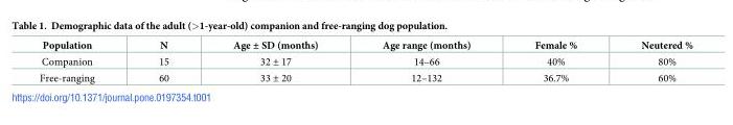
<table><thead><tr><td>Population</td><td>N</td><td>Age ± SD (months)</td><td>Age range (months)</td><td>Female %</td><td>Neutered %</td></tr></thead><tbody><tr><td>Companion</td><td>15</td><td>32 ± 17</td><td>14–66</td><td>40%</td><td>80%</td></tr><tr><td>Free-ranging</td><td>60</td><td>33 ± 20</td><td>12–132</td><td>36.7%</td><td>60%</td></tr></tbody></table>